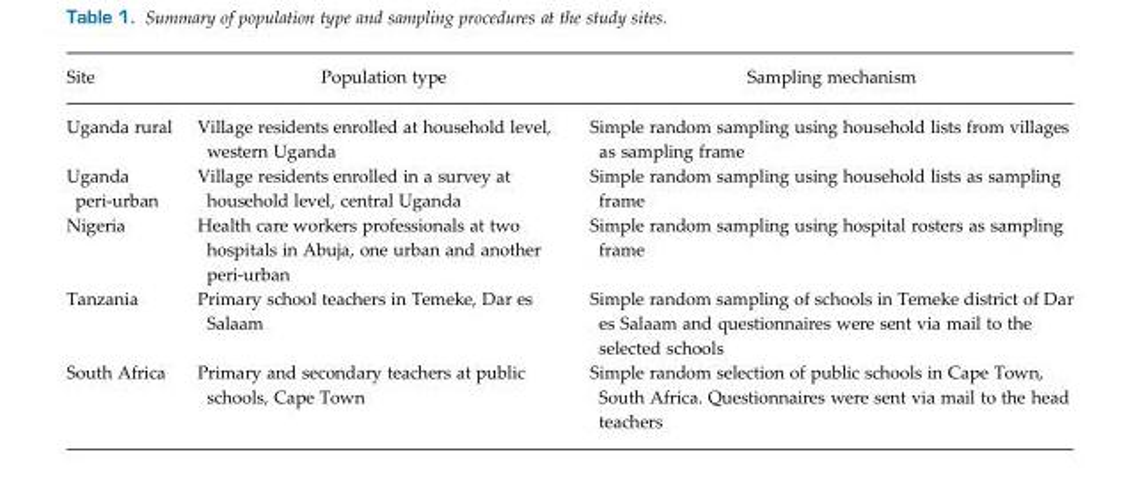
<table><thead><tr><td>Site</td><td>Population type</td><td>Sampling mechanism</td></tr></thead><tbody><tr><td>Uganda rural</td><td>Village residents enrolled at household level, western Uganda</td><td>Simple random sampling using household lists from villages as sampling frame</td></tr><tr><td>Uganda peri-urban</td><td>Village residents enrolled in a survey at household level, central Uganda</td><td>Simple random sampling using household lists as sampling frame</td></tr><tr><td>Nigeria</td><td>Health care workers professionals at two hospitals in Abuja, one urban and another peri-urban</td><td>Simple random sampling using hospital rosters as sampling frame</td></tr><tr><td>Tanzania</td><td>Primary school teachers in Temeke, Dar es Salaam</td><td>Simple random sampling of schools in Temeke district of Dar es Salaam and questionnaires were sent via mail to the selected schools</td></tr><tr><td>South Africa</td><td>Primary and secondary teachers at public schools, Cape Town</td><td>Simple random selection of public schools in Cape Town, South Africa. Questionnaires were sent via mail to the head teachers</td></tr></tbody></table>